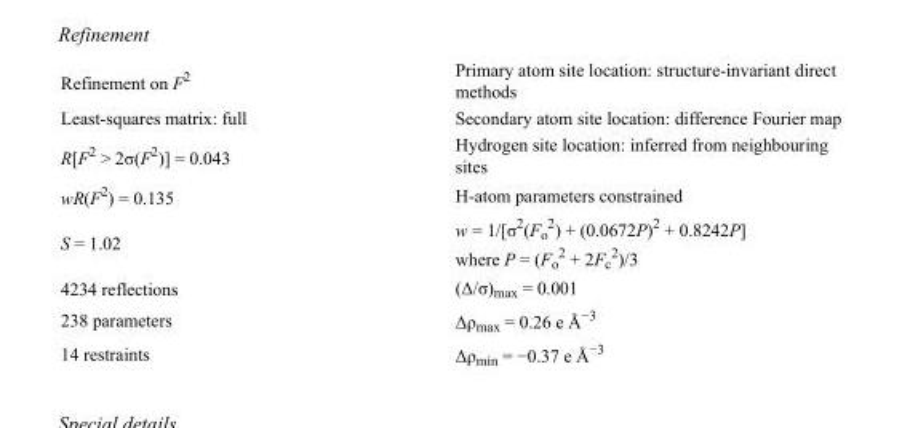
<table><tbody><tr><td>Refinement on F<sup>2</sup></td><td>Primary atom site location: structure-invariant direct methods</td></tr><tr><td>Least-squares matrix: full</td><td>Secondary atom site location: difference Fourier map</td></tr><tr><td>R[F<sup>2</sup> &gt; 2σ(F<sup>2</sup>)] = 0.043</td><td>Hydrogen site location: inferred from neighbouring sites</td></tr><tr><td>wR(F<sup>2</sup>) = 0.135</td><td>H-atom parameters constrained</td></tr><tr><td>S = 1.02</td><td>w = 1/[σ<sup>2</sup>(F<sub>o</sub> <sup>2</sup>) + (0.0672P)<sup>2</sup> + 0.8242P] where P = (F<sub>o</sub> <sup>2</sup> + 2F<sub>c</sub> <sup>2</sup>)/3</td></tr><tr><td>4234 reflections</td><td>(Δ/σ)<sub>max</sub> = 0.001</td></tr><tr><td>238 parameters</td><td>Δρ<sub>max</sub> = 0.26 e Å<sup>−3</sup></td></tr><tr><td>14 restraints</td><td>Δρ<sub>min</sub> = −0.37 e Å<sup>−3</sup></td></tr></tbody></table>